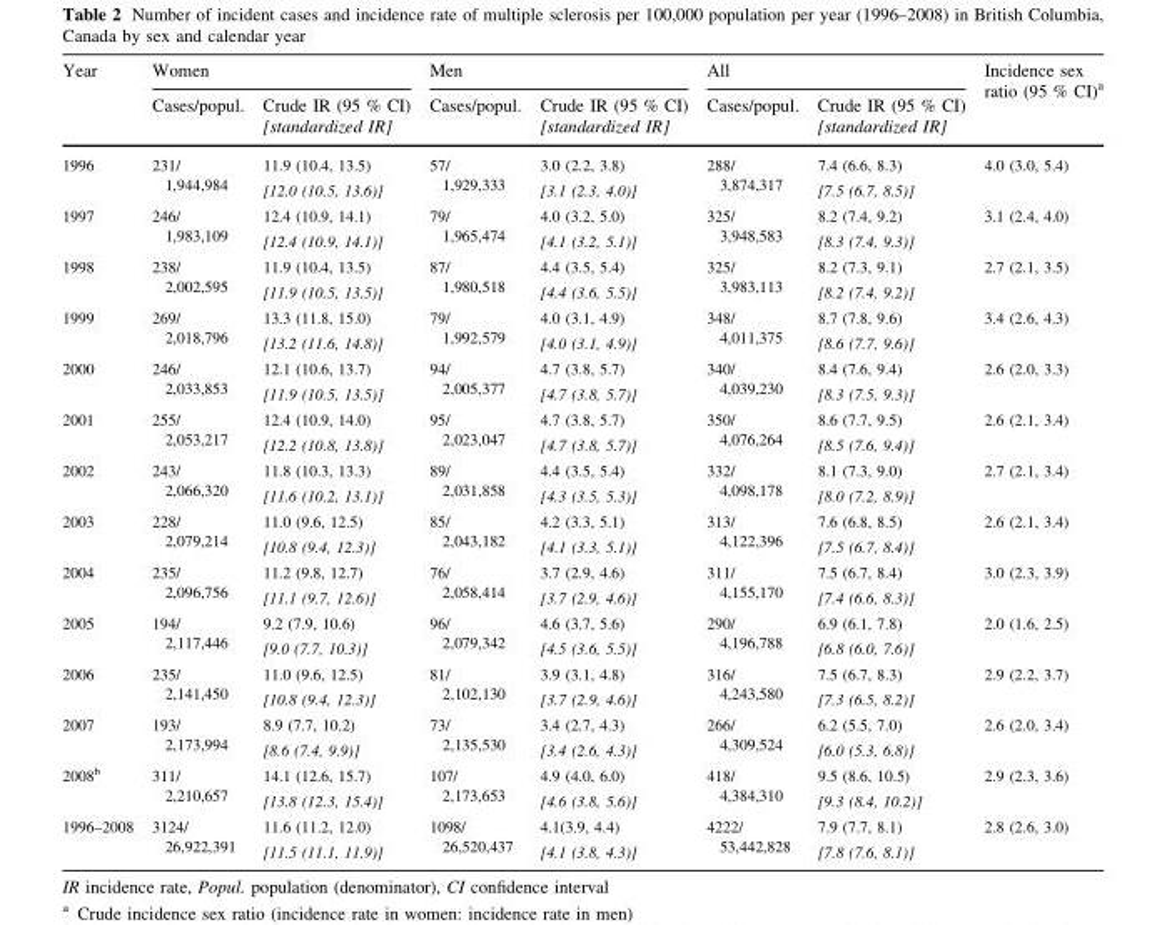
<table><thead><tr><td rowspan="2">Year</td><td colspan="2">Women</td><td colspan="2">Men</td><td colspan="2">All</td><td rowspan="2">Incidence sex ratio (95 % CI)<sup>a</sup></td></tr><tr><td>Cases/popul.</td><td>Crude IR (95 % CI) [standardized IR]</td><td>Cases/popul.</td><td>Crude IR (95 % CI) [standardized IR]</td><td>Cases/popul.</td><td>Crude IR (95 % CI) [standardized IR]</td></tr></thead><tbody><tr><td>1996</td><td>231/ 1,944,984</td><td>11.9 (10.4, 13.5) [12.0 (10.5, 13.6)]</td><td>57/ 1,929,333</td><td>3.0 (2.2, 3.8) [3.1 (2.3, 4.0)]</td><td>288/ 3,874,317</td><td>7.4 (6.6, 8.3) [7.5 (6.7, 8.5)]</td><td>4.0 (3.0, 5.4)</td></tr><tr><td>1997</td><td>246/ 1,983,109</td><td>12.4 (10.9, 14.1) [12.4 (10.9, 14.1)]</td><td>79/ 1,965,474</td><td>4.0 (3.2, 5.0) [4.1 (3.2, 5.1)]</td><td>325/ 3,948,583</td><td>8.2 (7.4, 9.2) [8.3 (7.4, 9.3)]</td><td>3.1 (2.4, 4.0)</td></tr><tr><td>1998</td><td>238/ 2,002,595</td><td>11.9 (10.4, 13.5) [11.9 (10.5, 13.5)]</td><td>87/ 1,980,518</td><td>4.4 (3.5, 5.4) [4.4 (3.6, 5.5)]</td><td>325/ 3,983,113</td><td>8.2 (7.3, 9.1) [8.2 (7.4, 9.2)]</td><td>2.7 (2.1, 3.5)</td></tr><tr><td>1999</td><td>269/ 2,018,796</td><td>13.3 (11.8, 15.0) [13.2 (11.6, 14.8)]</td><td>79/ 1,992,579</td><td>4.0 (3.1, 4.9) [4.0 (3.1, 4.9)]</td><td>348/ 4,011,375</td><td>8.7 (7.8, 9.6) [8.6 (7.7, 9.6)]</td><td>3.4 (2.6, 4.3)</td></tr><tr><td>2000</td><td>246/ 2,033,853</td><td>12.1 (10.6, 13.7) [11.9 (10.5, 13.5)]</td><td>94/ 2,005,377</td><td>4.7 (3.8, 5.7) [4.7 (3.8, 5.7)]</td><td>340/ 4,039,230</td><td>8.4 (7.6, 9.4) [8.3 (7.5, 9.3)]</td><td>2.6 (2.0, 3.3)</td></tr><tr><td>2001</td><td>255/ 2,053,217</td><td>12.4 (10.9, 14.0) [12.2 (10.8, 13.8)]</td><td>95/ 2,023,047</td><td>4.7 (3.8, 5.7) [4.7 (3.8, 5.7)]</td><td>350/ 4,076,264</td><td>8.6 (7.7, 9.5) [8.5 (7.6, 9.4)]</td><td>2.6 (2.1, 3.4)</td></tr><tr><td>2002</td><td>243/ 2,066,320</td><td>11.8 (10.3, 13.3) [11.6 (10.2, 13.1)]</td><td>89/ 2,031,858</td><td>4.4 (3.5, 5.4) [4.3 (3.5, 5.3)]</td><td>332/ 4,098,178</td><td>8.1 (7.3, 9.0) [8.0 (7.2, 8.9)]</td><td>2.7 (2.1, 3.4)</td></tr><tr><td>2003</td><td>228/ 2,079,214</td><td>11.0 (9.6, 12.5) [10.8 (9.4, 12.3)]</td><td>85/ 2,043,182</td><td>4.2 (3.3, 5.1) [4.1 (3.3, 5.1)]</td><td>313/ 4,122,396</td><td>7.6 (6.8, 8.5) [7.5 (6.7, 8.4)]</td><td>2.6 (2.1, 3.4)</td></tr><tr><td>2004</td><td>235/ 2,096,756</td><td>11.2 (9.8, 12.7) [11.1 (9.7, 12.6)]</td><td>76/ 2,058,414</td><td>3.7 (2.9, 4.6) [3.7 (2.9, 4.6)]</td><td>311/ 4,155,170</td><td>7.5 (6.7, 8.4) [7.4 (6.6, 8.3)]</td><td>3.0 (2.3, 3.9)</td></tr><tr><td>2005</td><td>194/ 2,117,446</td><td>9.2 (7.9, 10.6) [9.0 (7.7, 10.3)]</td><td>96/ 2,079,342</td><td>4.6 (3.7, 5.6) [4.5 (3.6, 5.5)]</td><td>290/ 4,196,788</td><td>6.9 (6.1, 7.8) [6.8 (6.0, 7.6)]</td><td>2.0 (1.6, 2.5)</td></tr><tr><td>2006</td><td>235/ 2,141,450</td><td>11.0 (9.6, 12.5) [10.8 (9.4, 12.3)]</td><td>81/ 2,102,130</td><td>3.9 (3.1, 4.8) [3.7 (2.9, 4.6)]</td><td>316/ 4,243,580</td><td>7.5 (6.7, 8.3) [7.3 (6.5, 8.2)]</td><td>2.9 (2.2, 3.7)</td></tr><tr><td>2007</td><td>193/ 2,173,994</td><td>8.9 (7.7, 10.2) [8.6 (7.4, 9.9)]</td><td>73/ 2,135,530</td><td>3.4 (2.7, 4.3) [3.4 (2.6, 4.3)]</td><td>266/ 4,309,524</td><td>6.2 (5.5, 7.0) [6.0 (5.3, 6.8)]</td><td>2.6 (2.0, 3.4)</td></tr><tr><td>2008<sup>b</sup></td><td>311/ 2,210,657</td><td>14.1 (12.6, 15.7) [13.8 (12.3, 15.4)]</td><td>107/ 2,173,653</td><td>4.9 (4.0, 6.0) [4.6 (3.8, 5.6)]</td><td>418/ 4,384,310</td><td>9.5 (8.6, 10.5) [9.3 (8.4, 10.2)]</td><td>2.9 (2.3, 3.6)</td></tr><tr><td>1996–2008</td><td>3124/ 26,922,391</td><td>11.6 (11.2, 12.0) [11.5 (11.1, 11.9)]</td><td>1098/ 26,520,437</td><td>4.1(3.9, 4.4) [4.1 (3.8, 4.3)]</td><td>4222/ 53,442,828</td><td>7.9 (7.7, 8.1) [7.8 (7.6, 8.1)]</td><td>2.8 (2.6, 3.0)</td></tr></tbody></table>